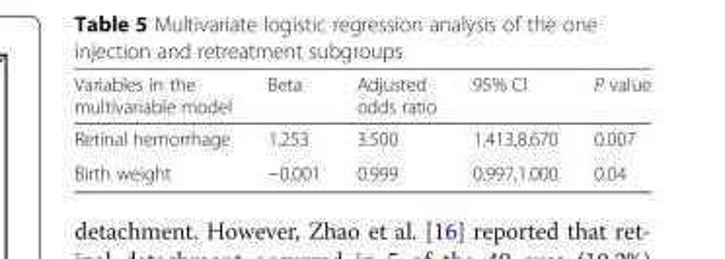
<table><thead><tr><td>Variables in the multivariable model</td><td>Beta</td><td>Adjusted odds ratio</td><td>95% CI</td><td>P value</td></tr></thead><tbody><tr><td>Retinal hemorrhage</td><td>1.253</td><td>3.500</td><td>1.413,8.670</td><td>0.007</td></tr><tr><td>Birth weight</td><td>−0.001</td><td>0.999</td><td>0.997,1.000</td><td>0.04</td></tr></tbody></table>